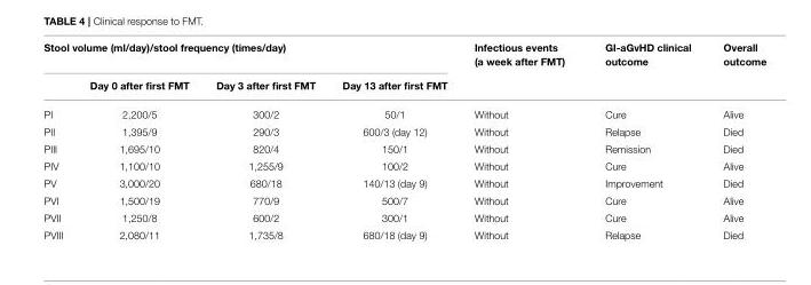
<table><thead><tr><td colspan="4">Stool volume (ml/day)/stool frequency (times/day)</td><td rowspan="2">Infectious events (a week after FMT)</td><td rowspan="2">GI-aGvHD clinical outcome</td><td rowspan="2">Overall outcome</td></tr><tr><td></td><td>Day 0 after first FMT</td><td>Day 3 after first FMT</td><td>Day 13 after first FMT</td></tr></thead><tbody><tr><td>PI</td><td>2,200/5</td><td>300/2</td><td>50/1</td><td>Without</td><td>Cure</td><td>Alive</td></tr><tr><td>PII</td><td>1,395/9</td><td>290/3</td><td>600/3 (day 12)</td><td>Without</td><td>Relapse</td><td>Died</td></tr><tr><td>PIII</td><td>1,695/10</td><td>820/4</td><td>150/1</td><td>Without</td><td>Remission</td><td>Died</td></tr><tr><td>PIV</td><td>1,100/10</td><td>1,255/9</td><td>100/2</td><td>Without</td><td>Cure</td><td>Alive</td></tr><tr><td>PV</td><td>3,000/20</td><td>680/18</td><td>140/13 (day 9)</td><td>Without</td><td>Improvement</td><td>Died</td></tr><tr><td>PVI</td><td>1,500/19</td><td>770/9</td><td>500/7</td><td>Without</td><td>Cure</td><td>Alive</td></tr><tr><td>PVII</td><td>1,250/8</td><td>600/2</td><td>300/1</td><td>Without</td><td>Cure</td><td>Alive</td></tr><tr><td>PVIII</td><td>2,080/11</td><td>1,735/8</td><td>680/18 (day 9)</td><td>Without</td><td>Relapse</td><td>Died</td></tr></tbody></table>